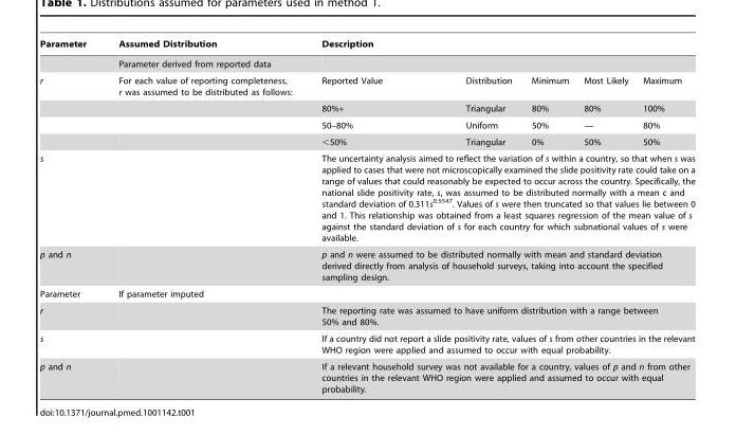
<table><thead><tr><td rowspan="3">Parameter r</td><td rowspan="3">Assumed Distribution Parameter derived from reported data For each value of reporting completeness, r was assumed to be distributed as follows:</td><td rowspan="2" colspan="5">Description</td></tr><tr></tr><tr><td>Reported Value</td><td>Distribution</td><td>Minimum</td><td>Most Likely</td><td>Maximum</td></tr></thead><tbody><tr><td></td><td></td><td>80%+</td><td>Triangular</td><td>80%</td><td>80%</td><td>100%</td></tr><tr><td></td><td></td><td>50–80%</td><td>Uniform</td><td>50%</td><td>—</td><td>80%</td></tr><tr><td></td><td></td><td>&lt;50%</td><td>Triangular</td><td>0%</td><td>50%</td><td>50%</td></tr><tr><td>s</td><td></td><td colspan="5">The uncertainty analysis aimed to reflect the variation of s within a country, so that when s was applied to cases that were not microscopically examined the slide positivity rate could take on a range of values that could reasonably be expected to occur across the country. Specifically, the national slide positivity rate, s, was assumed to be distributed normally with a mean c and standard deviation of 0.311s<sup>0.5547</sup>. Values of s were then truncated so that values lie between 0 and 1. This relationship was obtained from a least squares regression of the mean value of s against the standard deviation of s for each country for which subnational values of s were available.</td></tr><tr><td>p and n</td><td></td><td colspan="5">p and n were assumed to be distributed normally with mean and standard deviation derived directly from analysis of household surveys, taking into account the specified sampling design.</td></tr><tr><td>Parameter</td><td>If parameter imputed</td><td colspan="5"></td></tr><tr><td>r</td><td></td><td colspan="5">The reporting rate was assumed to have uniform distribution with a range between 50% and 80%.</td></tr><tr><td>s</td><td></td><td colspan="5">If a country did not report a slide positivity rate, values of s from other countries in the relevant WHO region were applied and assumed to occur with equal probability.</td></tr><tr><td>p and n</td><td></td><td colspan="5">If a relevant household survey was not available for a country, values of p and n from other countries in the relevant WHO region were applied and assumed to occur with equal probability.</td></tr></tbody></table>